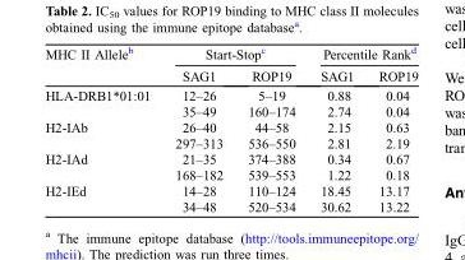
<table><thead><tr><td rowspan="2">MHC II Allele<sup>b</sup></td><td colspan="2">Start-Stop<sup>c</sup></td><td colspan="2">Percentile Rank<sup>d</sup></td></tr><tr><td>SAG1</td><td>ROP19</td><td>SAG1</td><td>ROP19</td></tr></thead><tbody><tr><td rowspan="2">HLA-DRB1*01:01</td><td>12–26</td><td>5–19</td><td>0.88</td><td>0.04</td></tr><tr><td>35–49</td><td>160–174</td><td>2.74</td><td>0.04</td></tr><tr><td rowspan="2">H2-IAb</td><td>26–40</td><td>44–58</td><td>2.15</td><td>0.63</td></tr><tr><td>297–313</td><td>536–550</td><td>2.81</td><td>2.19</td></tr><tr><td rowspan="2">H2-IAd</td><td>21–35</td><td>374–388</td><td>0.34</td><td>0.67</td></tr><tr><td>168–182</td><td>539–553</td><td>1.22</td><td>0.18</td></tr><tr><td rowspan="2">H2-IEd</td><td>14–28</td><td>110–124</td><td>18.45</td><td>13.17</td></tr><tr><td>34–48</td><td>520–534</td><td>30.62</td><td>13.22</td></tr></tbody></table>